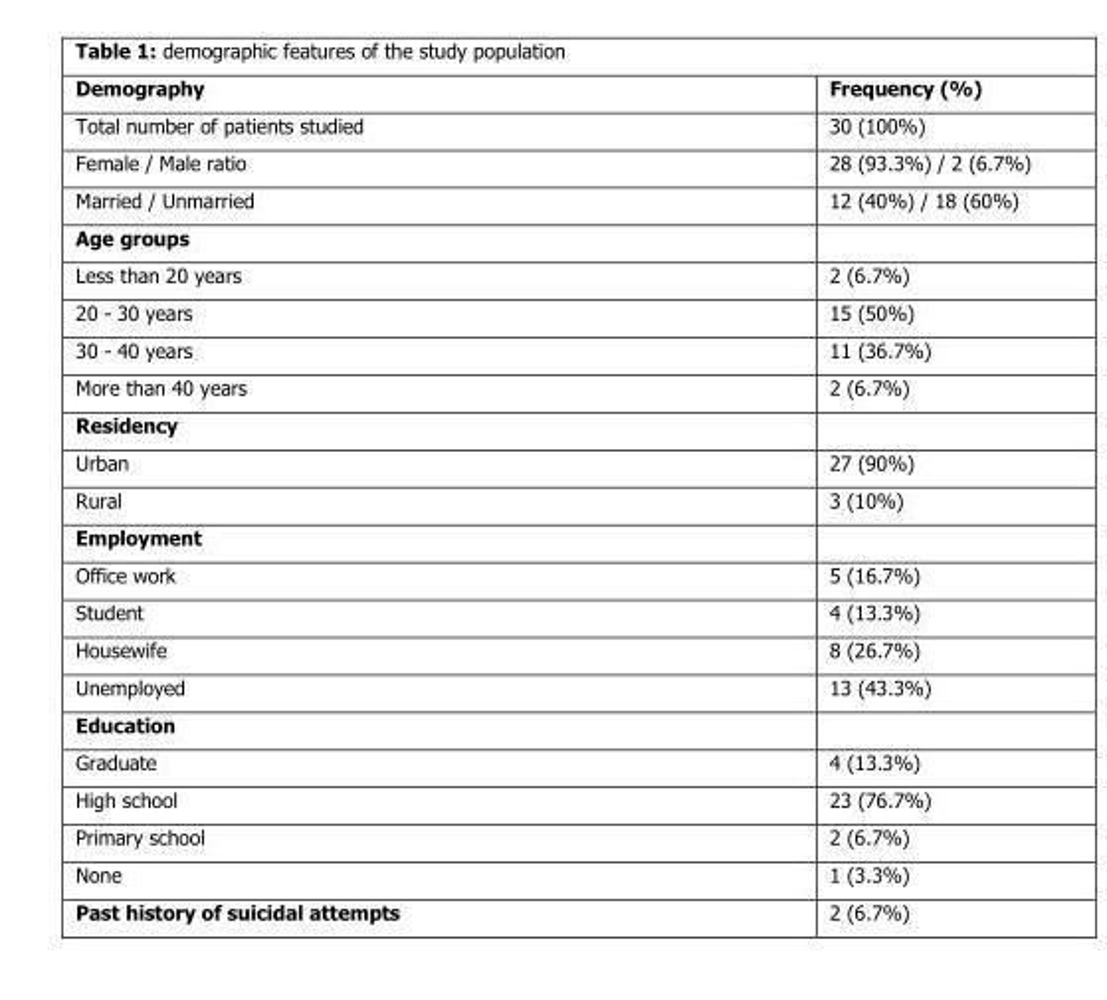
<table><thead><tr><td>Demography</td><td>Frequency (%)</td></tr></thead><tbody><tr><td>Total number of patients studied</td><td>30 (100%)</td></tr><tr><td>Female / Male ratio</td><td>28 (93.3%) / 2 (6.7%)</td></tr><tr><td>Married / Unmarried</td><td>12 (40%) / 18 (60%)</td></tr><tr><td colspan="2">Age groups</td></tr><tr><td>Less than 20 years</td><td>2 (6.7%)</td></tr><tr><td>20 - 30 years</td><td>15 (50%)</td></tr><tr><td>30 - 40 years</td><td>11 (36.7%)</td></tr><tr><td>More than 40 years</td><td>2 (6.7%)</td></tr><tr><td colspan="2">Residency</td></tr><tr><td>Urban</td><td>27 (90%)</td></tr><tr><td>Rural</td><td>3 (10%)</td></tr><tr><td colspan="2">Employment</td></tr><tr><td>Office work</td><td>5 (16.7%)</td></tr><tr><td>Student</td><td>4 (13.3%)</td></tr><tr><td>Housewife</td><td>8 (26.7%)</td></tr><tr><td>Unemployed</td><td>13 (43.3%)</td></tr><tr><td colspan="2">Education</td></tr><tr><td>Graduate</td><td>4 (13.3%)</td></tr><tr><td>High school</td><td>23 (76.7%)</td></tr><tr><td>Primary school</td><td>2 (6.7%)</td></tr><tr><td>None</td><td>1 (3.3%)</td></tr><tr><td>Past history of suicidal attempts</td><td>2 (6.7%)</td></tr></tbody></table>